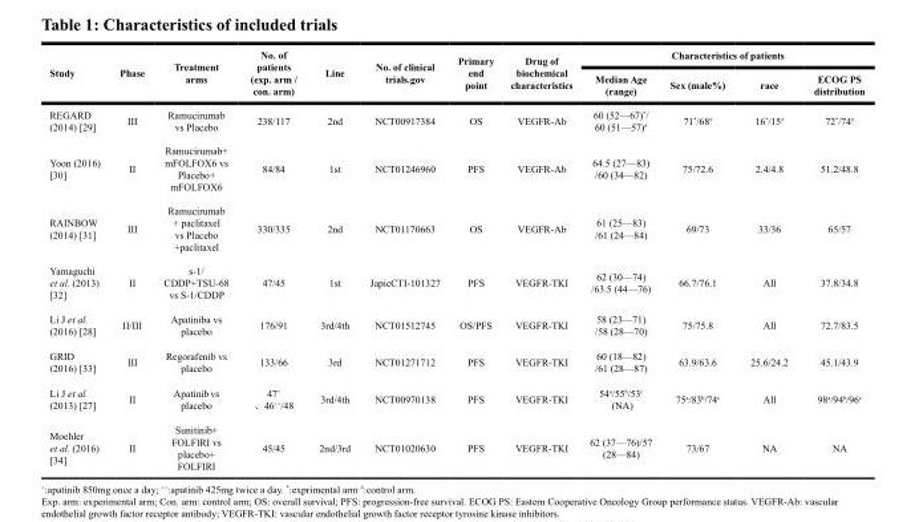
<table><thead><tr><td rowspan="2">Study</td><td rowspan="2">Phase</td><td rowspan="2">Treatment arms</td><td rowspan="2">No. of patients (exp. arm / con. arm)</td><td rowspan="2">Line</td><td rowspan="2">No. of clinical trials.gov</td><td rowspan="2">Primary end point</td><td rowspan="2">Drug of biochemical characteristics</td><td colspan="4">Characteristics of patients</td></tr><tr><td>Median Age (range)</td><td>Sex (male%)</td><td>race</td><td>ECOG PS distribution</td></tr></thead><tbody><tr><td>REGARD (2014) [29]</td><td>III</td><td>Ramucirumab vs Placebo</td><td>238/117</td><td>2<sup>nd</sup></td><td>NCT00917384</td><td>OS</td><td>VEGFR-Ab</td><td>60 (52—67)*/ 60 (51—57)<sup>#</sup></td><td>71*/68<sup>#</sup></td><td>16*/15<sup>#</sup></td><td>72*/74<sup>#</sup></td></tr><tr><td>Yoon (2016) [30]</td><td>II</td><td>Ramucirumab+ mFOLFOX6 vs Placebo+ mFOLFOX6</td><td>84/84</td><td>1<sup>st</sup></td><td>NCT01246960</td><td>PFS</td><td>VEGFR-Ab</td><td>64.5 (27—83) /60 (34—82)</td><td>75/72.6</td><td>2.4/4.8</td><td>51.2/48.8</td></tr><tr><td>RAINBOW (2014) [31]</td><td>III</td><td>Ramucirumab + paclitaxel vs Placebo +paclitaxel</td><td>330/335</td><td>2<sup>nd</sup></td><td>NCT01170663</td><td>OS</td><td>VEGFR-Ab</td><td>61 (25—83) /61 (24—84)</td><td>69/73</td><td>33/36</td><td>65/57</td></tr><tr><td>Yamaguchi et al. (2013) [32]</td><td>II</td><td>s-1/ CDDP+TSU-68 vs S-1/CDDP</td><td>47/45</td><td>1<sup>st</sup></td><td>JapicCTI-101327</td><td>PFS</td><td>VEGFR-TKI</td><td>62 (30—74) /63.5 (44—76)</td><td>66.7/76.1</td><td>All</td><td>37.8/34.8</td></tr><tr><td>Li J et al. (2016) [28]</td><td>II/III</td><td>Apatiniba vs placebo</td><td>176/91</td><td>3<sup>rd</sup>/4<sup>th</sup></td><td>NCT01512745</td><td>OS/PFS</td><td>VEGFR-TKI</td><td>58 (23—71) /58 (28—70)</td><td>75/75.8</td><td>All</td><td>72.7/83.5</td></tr><tr><td>GRID (2016) [33]</td><td>III</td><td>Regorafenib vs placebo</td><td>133/66</td><td>3<sup>rd</sup></td><td>NCT01271712</td><td>PFS</td><td>VEGFR-TKI</td><td>60 (18—82) /61 (28—87)</td><td>63.9/63.6</td><td>25.6/24.2</td><td>45.1/43.9</td></tr><tr><td>Li J et al. (2013) [27]</td><td>II</td><td>Apatinib vs placebo</td><td>47+ 、46++/48</td><td>3<sup>rd</sup>/4<sup>th</sup></td><td>NCT00970138</td><td>PFS</td><td>VEGFR-TKI</td><td>54<sup>a</sup>/55<sup>b</sup>/53<sup>c</sup> (NA)</td><td>75<sup>a</sup>/83<sup>b</sup>/74<sup>c</sup></td><td>All</td><td>98<sup>a</sup>/94<sup>b</sup>/96<sup>c</sup></td></tr><tr><td>Moehler et al. (2016) [34]</td><td>II</td><td>Sunitinib+ FOLFIRI vs placebo+ FOLFIRI</td><td>45/45</td><td>2<sup>nd</sup>/3<sup>rd</sup></td><td>NCT01020630</td><td>PFS</td><td>VEGFR-TKI</td><td>62 (37—76)/57 (28—84)</td><td>73/67</td><td>NA</td><td>NA</td></tr></tbody></table>